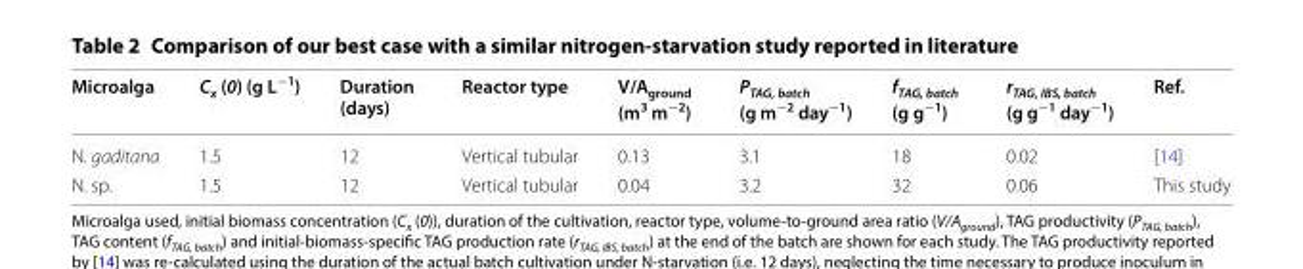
<table><thead><tr><td>Microalga</td><td>C<sub>x</sub> (0) (g L<sup>−1</sup>)</td><td>Duration (days)</td><td>Reactor type</td><td>V/A<sub>ground</sub> (m<sup>3</sup> m<sup>−2</sup>)</td><td>P<sub>TAG, batch</sub> (g m<sup>−2</sup> day<sup>−1</sup>)</td><td>f<sub>TAG, batch</sub> (g g<sup>−1</sup>)</td><td>r<sub>TAG, IBS, batch</sub> (g g<sup>−1</sup> day<sup>−1</sup>)</td><td>Ref.</td></tr></thead><tbody><tr><td>N. gaditana</td><td>1.5</td><td>12</td><td>Vertical tubular</td><td>0.13</td><td>3.1</td><td>18</td><td>0.02</td><td>[14]</td></tr><tr><td>N. sp.</td><td>1.5</td><td>12</td><td>Vertical tubular</td><td>0.04</td><td>3.2</td><td>32</td><td>0.06</td><td>This study</td></tr></tbody></table>